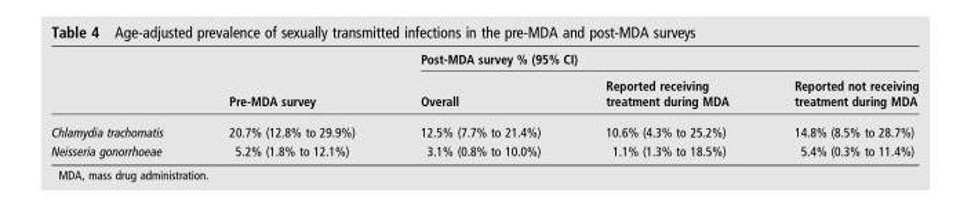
<table><thead><tr><td rowspan="2"></td><td rowspan="2">Pre-MDA survey</td><td colspan="3">Post-MDA survey % (95% CI)</td></tr><tr><td>Overall</td><td>Reported receiving treatment during MDA</td><td>Reported not receiving treatment during MDA</td></tr></thead><tbody><tr><td>Chlamydia trachomatis</td><td>20.7% (12.8% to 29.9%)</td><td>12.5% (7.7% to 21.4%)</td><td>10.6% (4.3% to 25.2%)</td><td>14.8% (8.5% to 28.7%)</td></tr><tr><td>Neisseria gonorrhoeae</td><td>5.2% (1.8% to 12.1%)</td><td>3.1% (0.8% to 10.0%)</td><td>1.1% (1.3% to 18.5%)</td><td>5.4% (0.3% to 11.4%)</td></tr></tbody></table>